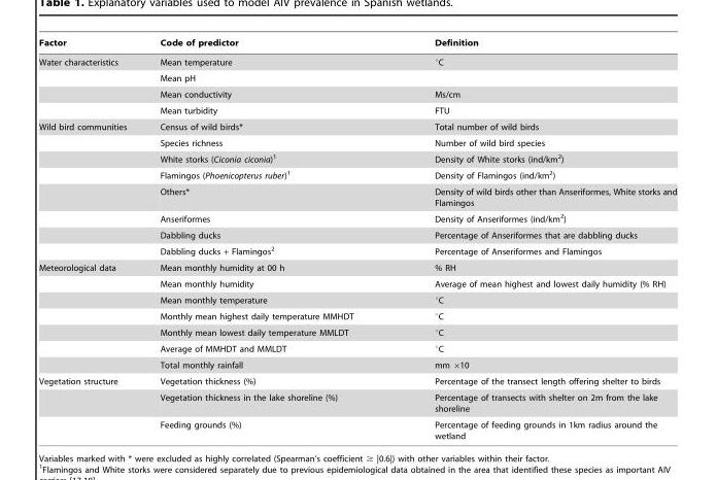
<table><thead><tr><td>Factor</td><td>Code of predictor</td><td>Definition</td></tr></thead><tbody><tr><td rowspan="4">Water characteristics</td><td>Mean temperature</td><td>°C</td></tr><tr><td>Mean pH</td><td></td></tr><tr><td>Mean conductivity</td><td>Ms/cm</td></tr><tr><td>Mean turbidity</td><td>FTU</td></tr><tr><td rowspan="8">Wild bird communities</td><td>Census of wild birds*</td><td>Total number of wild birds</td></tr><tr><td>Species richness</td><td>Number of wild bird species</td></tr><tr><td>White storks (Ciconia ciconia)<sup>1</sup></td><td>Density of White storks (ind/km<sup>2</sup>)</td></tr><tr><td>Flamingos (Phoenicopterus ruber)<sup>1</sup></td><td>Density of Flamingos (ind/km<sup>2</sup>)</td></tr><tr><td>Others*</td><td>Density of wild birds other than Anseriformes, White storks and Flamingos</td></tr><tr><td>Anseriformes</td><td>Density of Anseriformes (ind/km<sup>2</sup>)</td></tr><tr><td>Dabbling ducks</td><td>Percentage of Anseriformes that are dabbling ducks</td></tr><tr><td>Dabbling ducks + Flamingos<sup>2</sup></td><td>Percentage of Anseriformes and Flamingos</td></tr><tr><td rowspan="7">Meteorological data</td><td>Mean monthly humidity at 00 h</td><td>% RH</td></tr><tr><td>Mean monthly humidity</td><td>Average of mean highest and lowest daily humidity (% RH)</td></tr><tr><td>Mean monthly temperature</td><td>°C</td></tr><tr><td>Monthly mean highest daily temperature MMHDT</td><td>°C</td></tr><tr><td>Monthly mean lowest daily temperature MMLDT</td><td>°C</td></tr><tr><td>Average of MMHDT and MMLDT</td><td>°C</td></tr><tr><td>Total monthly rainfall</td><td>mm ×10</td></tr><tr><td rowspan="3">Vegetation structure</td><td>Vegetation thickness (%)</td><td>Percentage of the transect length offering shelter to birds</td></tr><tr><td>Vegetation thickness in the lake shoreline (%)</td><td>Percentage of transects with shelter on 2m from the lake shoreline</td></tr><tr><td>Feeding grounds (%)</td><td>Percentage of feeding grounds in 1km radius around the wetland</td></tr></tbody></table>